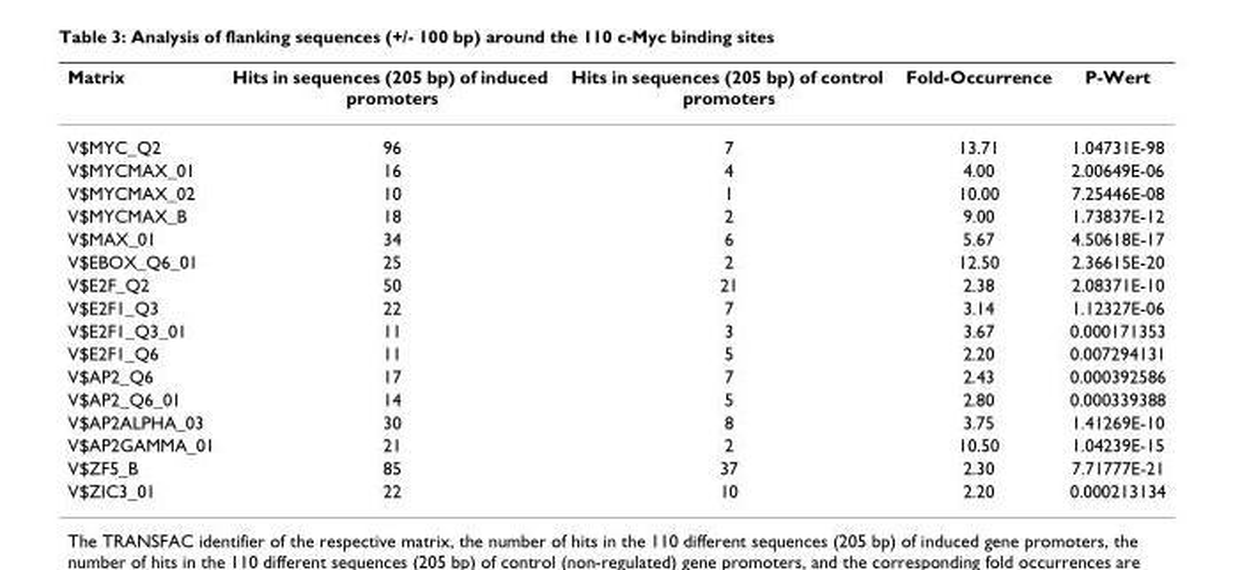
<table><thead><tr><td>Matrix</td><td>Hits in sequences (205 bp) of induced promoters</td><td>Hits in sequences (205 bp) of control promoters</td><td>Fold-Occurrence</td><td>P-Wert</td></tr></thead><tbody><tr><td>V$MYC_Q2</td><td>96</td><td>7</td><td>13.71</td><td>1.04731E-98</td></tr><tr><td>V$MYCMAX_01</td><td>16</td><td>4</td><td>4.00</td><td>2.00649E-06</td></tr><tr><td>V$MYCMAX_02</td><td>10</td><td>1</td><td>10.00</td><td>7.25446E-08</td></tr><tr><td>V$MYCMAX_B</td><td>18</td><td>2</td><td>9.00</td><td>1.73837E-12</td></tr><tr><td>V$MAX_01</td><td>34</td><td>6</td><td>5.67</td><td>4.50618E-17</td></tr><tr><td>V$EBOX_Q6_01</td><td>25</td><td>2</td><td>12.50</td><td>2.36615E-20</td></tr><tr><td>V$E2F_Q2</td><td>50</td><td>21</td><td>2.38</td><td>2.08371E-10</td></tr><tr><td>V$E2F1_Q3</td><td>22</td><td>7</td><td>3.14</td><td>1.12327E-06</td></tr><tr><td>V$E2F1_Q3_01</td><td>11</td><td>3</td><td>3.67</td><td>0.000171353</td></tr><tr><td>V$E2F1_Q6</td><td>11</td><td>5</td><td>2.20</td><td>0.007294131</td></tr><tr><td>V$AP2_Q6</td><td>17</td><td>7</td><td>2.43</td><td>0.000392586</td></tr><tr><td>V$AP2_Q6_01</td><td>14</td><td>5</td><td>2.80</td><td>0.000339388</td></tr><tr><td>V$AP2ALPHA_03</td><td>30</td><td>8</td><td>3.75</td><td>1.41269E-10</td></tr><tr><td>V$AP2GAMMA_01</td><td>21</td><td>2</td><td>10.50</td><td>1.04239E-15</td></tr><tr><td>V$ZF5_B</td><td>85</td><td>37</td><td>2.30</td><td>7.71777E-21</td></tr><tr><td>V$ZIC3_01</td><td>22</td><td>10</td><td>2.20</td><td>0.000213134</td></tr></tbody></table>